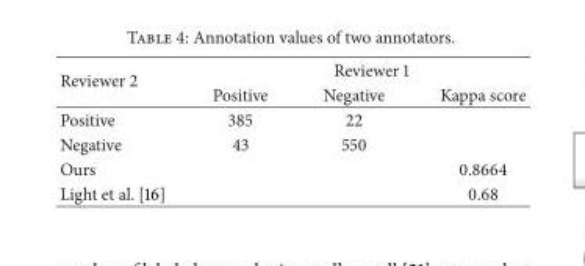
<table><thead><tr><td rowspan="2">Reviewer 2</td><td colspan="3">Reviewer 1</td></tr><tr><td>Positive</td><td>Negative</td><td>Kappa score</td></tr></thead><tbody><tr><td>Positive</td><td>385</td><td>22</td><td></td></tr><tr><td>Negative</td><td>43</td><td>550</td><td></td></tr><tr><td>Ours</td><td></td><td></td><td>0.8664</td></tr><tr><td>Light et al. [16]</td><td></td><td></td><td>0.68</td></tr></tbody></table>